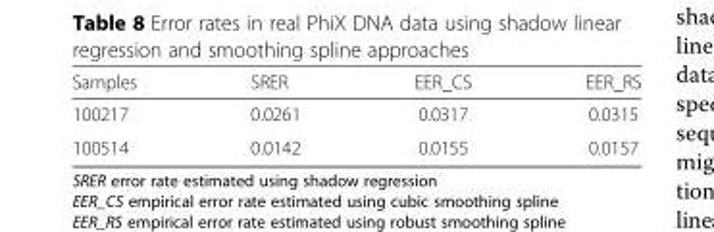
<table><thead><tr><td>Samples</td><td>SRER</td><td>EER_CS</td><td>EER_RS</td></tr></thead><tbody><tr><td>100217</td><td>0.0261</td><td>0.0317</td><td>0.0315</td></tr><tr><td>100514</td><td>0.0142</td><td>0.0155</td><td>0.0157</td></tr></tbody></table>